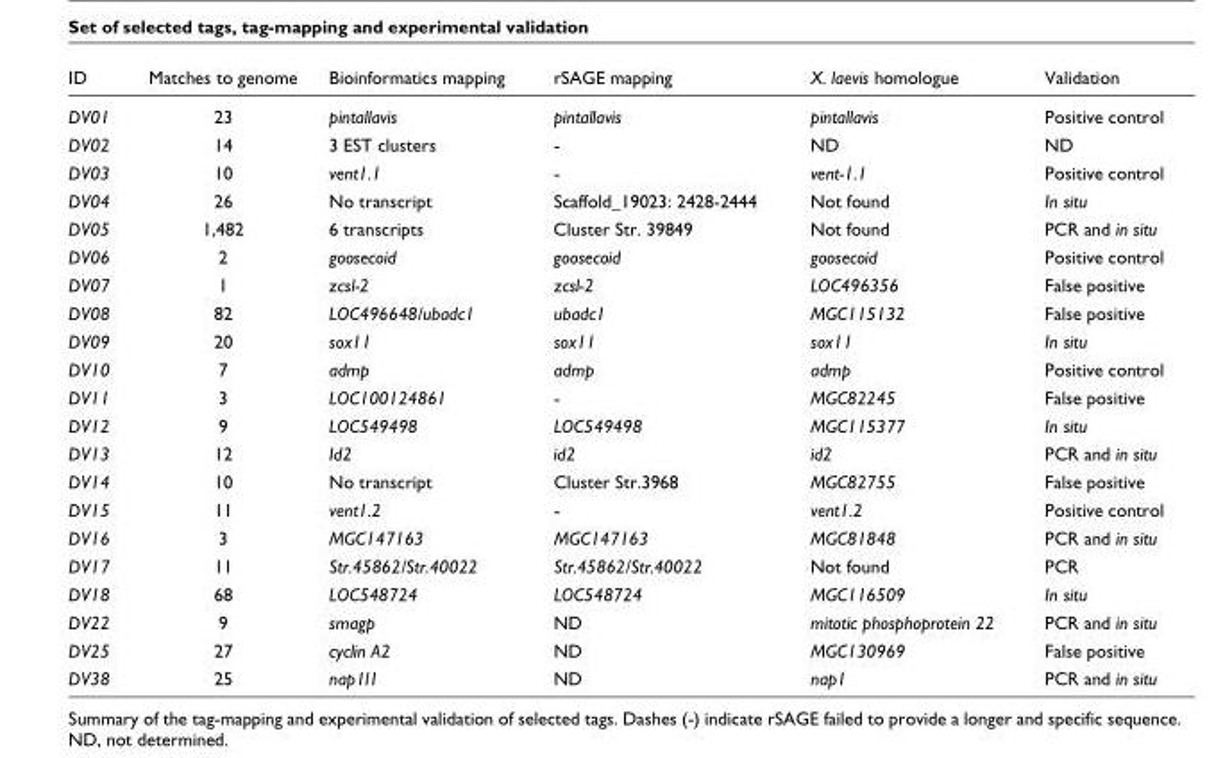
<table><thead><tr><td>ID</td><td>Matches to genome</td><td>Bioinformatics mapping</td><td>rSAGE mapping</td><td>X. laevis homologue</td><td>Validation</td></tr></thead><tbody><tr><td>DV01</td><td>23</td><td>pintallavis</td><td>pintallavis</td><td>pintallavis</td><td>Positive control</td></tr><tr><td>DV02</td><td>14</td><td>3 EST clusters</td><td>-</td><td>ND</td><td>ND</td></tr><tr><td>DV03</td><td>10</td><td>vent1.1</td><td>-</td><td>vent-1.1</td><td>Positive control</td></tr><tr><td>DV04</td><td>26</td><td>No transcript</td><td>Scaffold_19023: 2428-2444</td><td>Not found</td><td>In situ</td></tr><tr><td>DV05</td><td>1,482</td><td>6 transcripts</td><td>Cluster Str. 39849</td><td>Not found</td><td>PCR and in situ</td></tr><tr><td>DV06</td><td>2</td><td>goosecoid</td><td>goosecoid</td><td>goosecoid</td><td>Positive control</td></tr><tr><td>DV07</td><td>1</td><td>zcsl-2</td><td>zcsl-2</td><td>LOC496356</td><td>False positive</td></tr><tr><td>DV08</td><td>82</td><td>LOC496648/ubadc1</td><td>ubadc1</td><td>MGC115132</td><td>False positive</td></tr><tr><td>DV09</td><td>20</td><td>sox11</td><td>sox11</td><td>sox11</td><td>In situ</td></tr><tr><td>DV10</td><td>7</td><td>admp</td><td>admp</td><td>admp</td><td>Positive control</td></tr><tr><td>DV11</td><td>3</td><td>LOC100124861</td><td>-</td><td>MGC82245</td><td>False positive</td></tr><tr><td>DV12</td><td>9</td><td>LOC549498</td><td>LOC549498</td><td>MGC115377</td><td>In situ</td></tr><tr><td>DV13</td><td>12</td><td>Id2</td><td>id2</td><td>id2</td><td>PCR and in situ</td></tr><tr><td>DV14</td><td>10</td><td>No transcript</td><td>Cluster Str.3968</td><td>MGC82755</td><td>False positive</td></tr><tr><td>DV15</td><td>11</td><td>vent1.2</td><td>-</td><td>vent1.2</td><td>Positive control</td></tr><tr><td>DV16</td><td>3</td><td>MGC147163</td><td>MGC147163</td><td>MGC81848</td><td>PCR and in situ</td></tr><tr><td>DV17</td><td>11</td><td>Str.45862/Str.40022</td><td>Str.45862/Str.40022</td><td>Not found</td><td>PCR</td></tr><tr><td>DV18</td><td>68</td><td>LOC548724</td><td>LOC548724</td><td>MGC116509</td><td>In situ</td></tr><tr><td>DV22</td><td>9</td><td>smagp</td><td>ND</td><td>mitotic phosphoprotein 22</td><td>PCR and in situ</td></tr><tr><td>DV25</td><td>27</td><td>cyclin A2</td><td>ND</td><td>MGC130969</td><td>False positive</td></tr><tr><td>DV38</td><td>25</td><td>nap1l1</td><td>ND</td><td>nap1</td><td>PCR and in situ</td></tr></tbody></table>